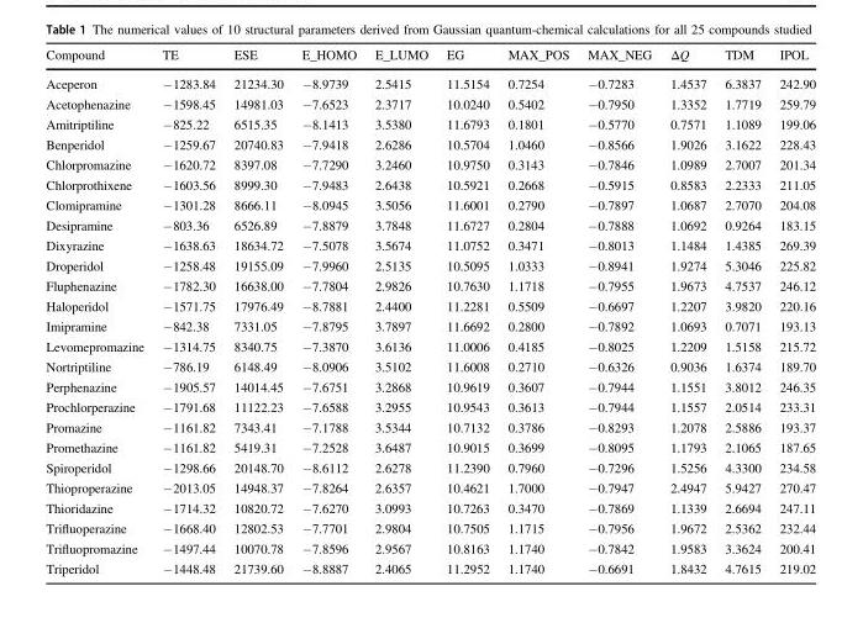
<table><thead><tr><td>Compound</td><td>TE</td><td>ESE</td><td>E_HOMO</td><td>E_LUMO</td><td>EG</td><td>MAX_POS</td><td>MAX_NEG</td><td>ΔQ</td><td>TDM</td><td>IPOL</td></tr></thead><tbody><tr><td>Aceperon</td><td>−1283.84</td><td>21234.30</td><td>−8.9739</td><td>2.5415</td><td>11.5154</td><td>0.7254</td><td>−0.7283</td><td>1.4537</td><td>6.3837</td><td>242.90</td></tr><tr><td>Acetophenazine</td><td>−1598.45</td><td>14981.03</td><td>−7.6523</td><td>2.3717</td><td>10.0240</td><td>0.5402</td><td>−0.7950</td><td>1.3352</td><td>1.7719</td><td>259.79</td></tr><tr><td>Amitriptiline</td><td>−825.22</td><td>6515.35</td><td>−8.1413</td><td>3.5380</td><td>11.6793</td><td>0.1801</td><td>−0.5770</td><td>0.7571</td><td>1.1089</td><td>199.06</td></tr><tr><td>Benperidol</td><td>−1259.67</td><td>20740.83</td><td>−7.9418</td><td>2.6286</td><td>10.5704</td><td>1.0460</td><td>−0.8566</td><td>1.9026</td><td>3.1622</td><td>228.43</td></tr><tr><td>Chlorpromazine</td><td>−1620.72</td><td>8397.08</td><td>−7.7290</td><td>3.2460</td><td>10.9750</td><td>0.3143</td><td>−0.7846</td><td>1.0989</td><td>2.7007</td><td>201.34</td></tr><tr><td>Chlorprothixene</td><td>−1603.56</td><td>8999.30</td><td>−7.9483</td><td>2.6438</td><td>10.5921</td><td>0.2668</td><td>−0.5915</td><td>0.8583</td><td>2.2333</td><td>211.05</td></tr><tr><td>Clomipramine</td><td>−1301.28</td><td>8666.11</td><td>−8.0945</td><td>3.5056</td><td>11.6001</td><td>0.2790</td><td>−0.7897</td><td>1.0687</td><td>2.7070</td><td>204.08</td></tr><tr><td>Desipramine</td><td>−803.36</td><td>6526.89</td><td>−7.8879</td><td>3.7848</td><td>11.6727</td><td>0.2804</td><td>−0.7888</td><td>1.0692</td><td>0.9264</td><td>183.15</td></tr><tr><td>Dixyrazine</td><td>−1638.63</td><td>18634.72</td><td>−7.5078</td><td>3.5674</td><td>11.0752</td><td>0.3471</td><td>−0.8013</td><td>1.1484</td><td>1.4385</td><td>269.39</td></tr><tr><td>Droperidol</td><td>−1258.48</td><td>19155.09</td><td>−7.9960</td><td>2.5135</td><td>10.5095</td><td>1.0333</td><td>−0.8941</td><td>1.9274</td><td>5.3046</td><td>225.82</td></tr><tr><td>Fluphenazine</td><td>−1782.30</td><td>16638.00</td><td>−7.7804</td><td>2.9826</td><td>10.7630</td><td>1.1718</td><td>−0.7955</td><td>1.9673</td><td>4.7537</td><td>246.12</td></tr><tr><td>Haloperidol</td><td>−1571.75</td><td>17976.49</td><td>−8.7881</td><td>2.4400</td><td>11.2281</td><td>0.5509</td><td>−0.6697</td><td>1.2207</td><td>3.9820</td><td>220.16</td></tr><tr><td>Imipramine</td><td>−842.38</td><td>7331.05</td><td>−7.8795</td><td>3.7897</td><td>11.6692</td><td>0.2800</td><td>−0.7892</td><td>1.0693</td><td>0.7071</td><td>193.13</td></tr><tr><td>Levomepromazine</td><td>−1314.75</td><td>8340.75</td><td>−7.3870</td><td>3.6136</td><td>11.0006</td><td>0.4185</td><td>−0.8025</td><td>1.2209</td><td>1.5158</td><td>215.72</td></tr><tr><td>Nortriptiline</td><td>−786.19</td><td>6148.49</td><td>−8.0906</td><td>3.5102</td><td>11.6008</td><td>0.2710</td><td>−0.6326</td><td>0.9036</td><td>1.6374</td><td>189.70</td></tr><tr><td>Perphenazine</td><td>−1905.57</td><td>14014.45</td><td>−7.6751</td><td>3.2868</td><td>10.9619</td><td>0.3607</td><td>−0.7944</td><td>1.1551</td><td>3.8012</td><td>246.35</td></tr><tr><td>Prochlorperazine</td><td>−1791.68</td><td>11122.23</td><td>−7.6588</td><td>3.2955</td><td>10.9543</td><td>0.3613</td><td>−0.7944</td><td>1.1557</td><td>2.0514</td><td>233.31</td></tr><tr><td>Promazine</td><td>−1161.82</td><td>7343.41</td><td>−7.1788</td><td>3.5344</td><td>10.7132</td><td>0.3786</td><td>−0.8293</td><td>1.2078</td><td>2.5886</td><td>193.37</td></tr><tr><td>Promethazine</td><td>−1161.82</td><td>5419.31</td><td>−7.2528</td><td>3.6487</td><td>10.9015</td><td>0.3699</td><td>−0.8095</td><td>1.1793</td><td>2.1065</td><td>187.65</td></tr><tr><td>Spiroperidol</td><td>−1298.66</td><td>20148.70</td><td>−8.6112</td><td>2.6278</td><td>11.2390</td><td>0.7960</td><td>−0.7296</td><td>1.5256</td><td>4.3300</td><td>234.58</td></tr><tr><td>Thioproperazine</td><td>−2013.05</td><td>14948.37</td><td>−7.8264</td><td>2.6357</td><td>10.4621</td><td>1.7000</td><td>−0.7947</td><td>2.4947</td><td>5.9427</td><td>270.47</td></tr><tr><td>Thioridazine</td><td>−1714.32</td><td>10820.72</td><td>−7.6270</td><td>3.0993</td><td>10.7263</td><td>0.3470</td><td>−0.7869</td><td>1.1339</td><td>2.6694</td><td>247.11</td></tr><tr><td>Trifluoperazine</td><td>−1668.40</td><td>12802.53</td><td>−7.7701</td><td>2.9804</td><td>10.7505</td><td>1.1715</td><td>−0.7956</td><td>1.9672</td><td>2.5362</td><td>232.44</td></tr><tr><td>Trifluopromazine</td><td>−1497.44</td><td>10070.78</td><td>−7.8596</td><td>2.9567</td><td>10.8163</td><td>1.1740</td><td>−0.7842</td><td>1.9583</td><td>3.3624</td><td>200.41</td></tr><tr><td>Triperidol</td><td>−1448.48</td><td>21739.60</td><td>−8.8887</td><td>2.4065</td><td>11.2952</td><td>1.1740</td><td>−0.6691</td><td>1.8432</td><td>4.7615</td><td>219.02</td></tr></tbody></table>